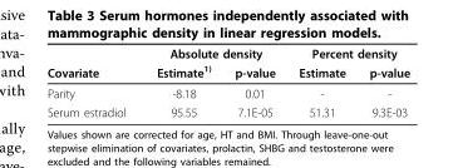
<table><thead><tr><td rowspan="2">Covariate</td><td colspan="2">Absolute density</td><td colspan="2">Percent density</td></tr><tr><td>Estimate<sup>1)</sup></td><td>p-value</td><td>Estimate</td><td>p-value</td></tr></thead><tbody><tr><td>Parity</td><td>-8.18</td><td>0.01</td><td>-</td><td>-</td></tr><tr><td>Serum estradiol</td><td>95.55</td><td>7.1E-05</td><td>51.31</td><td>9.3E-03</td></tr></tbody></table>